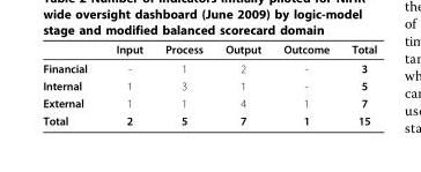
<table><thead><tr><td></td><td>Input</td><td>Process</td><td>Output</td><td>Outcome</td><td>Total</td></tr></thead><tbody><tr><td>Financial</td><td>-</td><td>1</td><td>2</td><td>-</td><td>3</td></tr><tr><td>Internal</td><td>1</td><td>3</td><td>1</td><td>-</td><td>5</td></tr><tr><td>External</td><td>1</td><td>1</td><td>4</td><td>1</td><td>7</td></tr><tr><td>Total</td><td>2</td><td>5</td><td>7</td><td>1</td><td>15</td></tr></tbody></table>